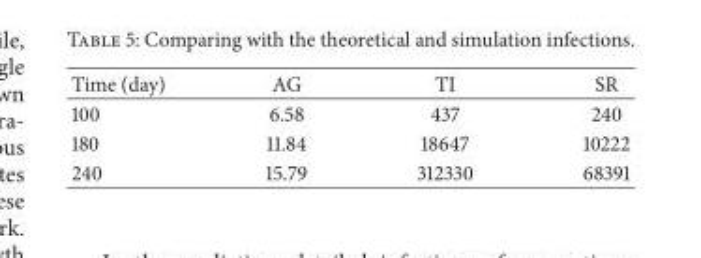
<table><thead><tr><td>Time (day)</td><td>AG</td><td>TI</td><td>SR</td></tr></thead><tbody><tr><td>100</td><td>6.58</td><td>437</td><td>240</td></tr><tr><td>180</td><td>11.84</td><td>18647</td><td>10222</td></tr><tr><td>240</td><td>15.79</td><td>312330</td><td>68391</td></tr></tbody></table>